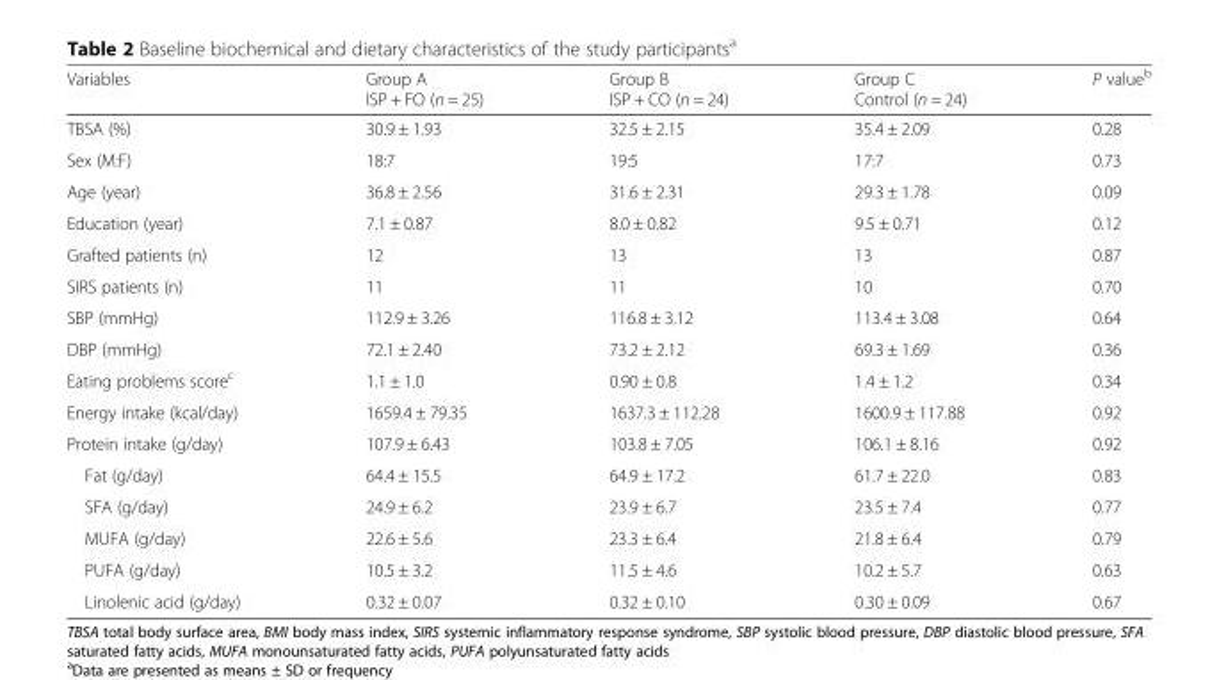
<table><thead><tr><td>Variables</td><td>Group A ISP + FO (n = 25)</td><td>Group B ISP + CO (n = 24)</td><td>Group C Control (n = 24)</td><td>P value<sup>b</sup></td></tr></thead><tbody><tr><td>TBSA (%)</td><td>30.9 ± 1.93</td><td>32.5 ± 2.15</td><td>35.4 ± 2.09</td><td>0.28</td></tr><tr><td>Sex (M:F)</td><td>18:7</td><td>19:5</td><td>17:7</td><td>0.73</td></tr><tr><td>Age (year)</td><td>36.8 ± 2.56</td><td>31.6 ± 2.31</td><td>29.3 ± 1.78</td><td>0.09</td></tr><tr><td>Education (year)</td><td>7.1 ± 0.87</td><td>8.0 ± 0.82</td><td>9.5 ± 0.71</td><td>0.12</td></tr><tr><td>Grafted patients (n)</td><td>12</td><td>13</td><td>13</td><td>0.87</td></tr><tr><td>SIRS patients (n)</td><td>11</td><td>11</td><td>10</td><td>0.70</td></tr><tr><td>SBP (mmHg)</td><td>112.9 ± 3.26</td><td>116.8 ± 3.12</td><td>113.4 ± 3.08</td><td>0.64</td></tr><tr><td>DBP (mmHg)</td><td>72.1 ± 2.40</td><td>73.2 ± 2.12</td><td>69.3 ± 1.69</td><td>0.36</td></tr><tr><td>Eating problems score<sup>c</sup></td><td>1.1 ± 1.0</td><td>0.90 ± 0.8</td><td>1.4 ± 1.2</td><td>0.34</td></tr><tr><td>Energy intake (kcal/day)</td><td>1659.4 ± 79.35</td><td>1637.3 ± 112.28</td><td>1600.9 ± 117.88</td><td>0.92</td></tr><tr><td>Protein intake (g/day)</td><td>107.9 ± 6.43</td><td>103.8 ± 7.05</td><td>106.1 ± 8.16</td><td>0.92</td></tr><tr><td>Fat (g/day)</td><td>64.4 ± 15.5</td><td>64.9 ± 17.2</td><td>61.7 ± 22.0</td><td>0.83</td></tr><tr><td>SFA (g/day)</td><td>24.9 ± 6.2</td><td>23.9 ± 6.7</td><td>23.5 ± 7.4</td><td>0.77</td></tr><tr><td>MUFA (g/day)</td><td>22.6 ± 5.6</td><td>23.3 ± 6.4</td><td>21.8 ± 6.4</td><td>0.79</td></tr><tr><td>PUFA (g/day)</td><td>10.5 ± 3.2</td><td>11.5 ± 4.6</td><td>10.2 ± 5.7</td><td>0.63</td></tr><tr><td>Linolenic acid (g/day)</td><td>0.32 ± 0.07</td><td>0.32 ± 0.10</td><td>0.30 ± 0.09</td><td>0.67</td></tr></tbody></table>